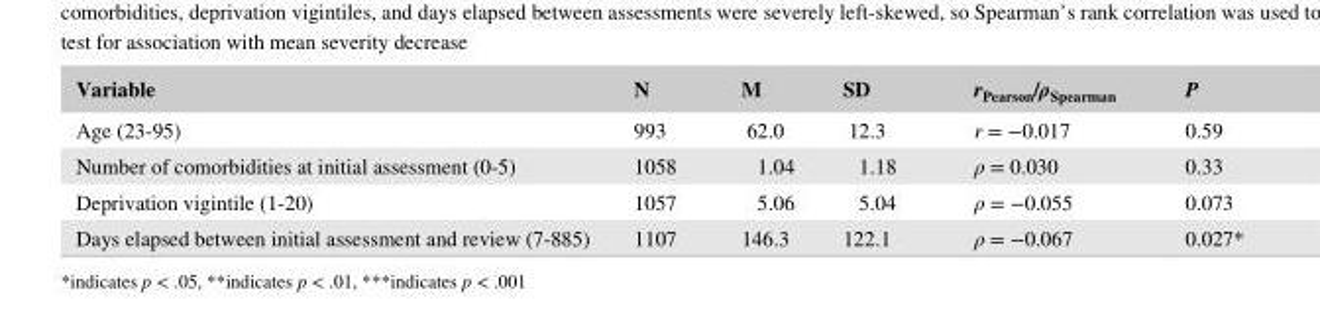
<table><thead><tr><td>Variable</td><td>N</td><td>M</td><td>SD</td><td>r<sub>Pearson</sub>/ρ<sub>Spearman</sub></td><td>P</td></tr></thead><tbody><tr><td>Age (23- 95)</td><td>993</td><td>62.0</td><td>12.3</td><td>r = −0.017</td><td>0.59</td></tr><tr><td>Number of comorbidities at initial assessment (0- 5)</td><td>1058</td><td>1.04</td><td>1.18</td><td>ρ = 0.030</td><td>0.33</td></tr><tr><td>Deprivation vigintile (1- 20)</td><td>1057</td><td>5.06</td><td>5.04</td><td>ρ = −0.055</td><td>0.073</td></tr><tr><td>Days elapsed between initial assessment and review (7- 885)</td><td>1107</td><td>146.3</td><td>122.1</td><td>ρ = −0.067</td><td>0.027*</td></tr></tbody></table>